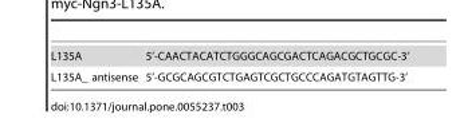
<table><tbody><tr><td>L135A</td><td>5’-CAACTACATCTGGGCAGCGACTCAGACGCTGCGC-3’</td></tr><tr><td>L135A_ antisense</td><td>5’-GCGCAGCGTCTGAGTCGCTGCCCAGATGTAGTTG-3’</td></tr></tbody></table>